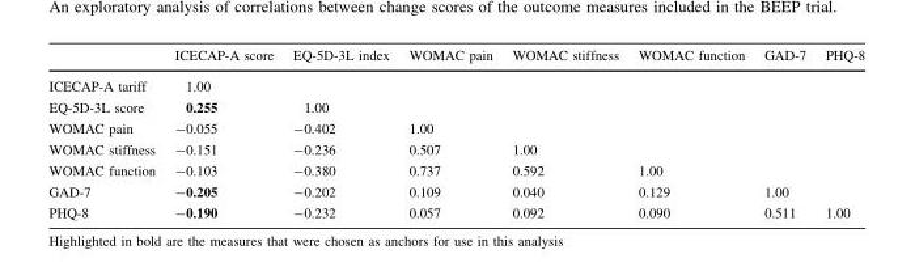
<table><thead><tr><td></td><td>ICECAP-A score</td><td>EQ-5D-3L index</td><td>WOMAC pain</td><td>WOMAC stiffness</td><td>WOMAC function</td><td>GAD-7</td><td>PHQ-8</td></tr></thead><tbody><tr><td>ICECAP-A tariff</td><td>1.00</td><td></td><td></td><td></td><td></td><td></td><td></td></tr><tr><td>EQ-5D-3L score</td><td>0.255</td><td>1.00</td><td></td><td></td><td></td><td></td><td></td></tr><tr><td>WOMAC pain</td><td>-0.055</td><td>-0.402</td><td>1.00</td><td></td><td></td><td></td><td></td></tr><tr><td>WOMAC stiffness</td><td>-0.151</td><td>-0.236</td><td>0.507</td><td>1.00</td><td></td><td></td><td></td></tr><tr><td>WOMAC function</td><td>-0.103</td><td>-0.380</td><td>0.737</td><td>0.592</td><td>1.00</td><td></td><td></td></tr><tr><td>GAD-7</td><td>-0.205</td><td>-0.202</td><td>0.109</td><td>0.040</td><td>0.129</td><td>1.00</td><td></td></tr><tr><td>PHQ-8</td><td>-0.190</td><td>-0.232</td><td>0.057</td><td>0.092</td><td>0.090</td><td>0.511</td><td>1.00</td></tr></tbody></table>